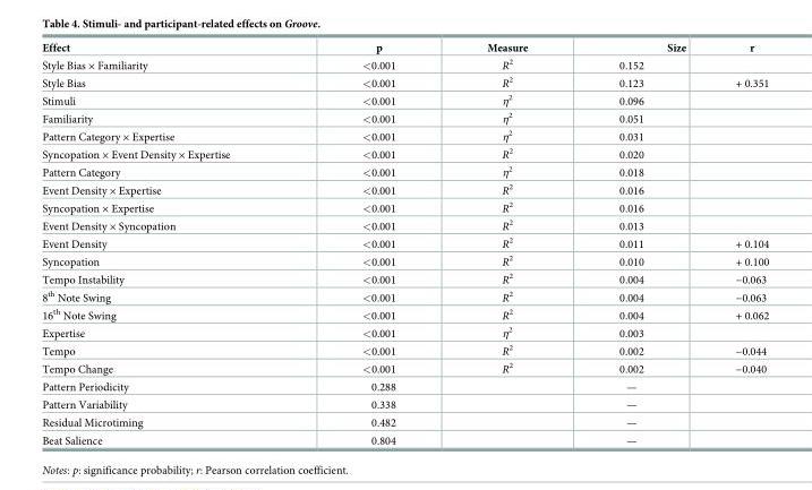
<table><thead><tr><td>Effect</td><td>p</td><td>Measure</td><td>Size</td><td>r</td></tr></thead><tbody><tr><td>Style Bias × Familiarity</td><td>&lt;0.001</td><td>R<sup>2</sup></td><td>0.152</td><td></td></tr><tr><td>Style Bias</td><td>&lt;0.001</td><td>R<sup>2</sup></td><td>0.123</td><td>+ 0.351</td></tr><tr><td>Stimuli</td><td>&lt;0.001</td><td>η<sup>2</sup></td><td>0.096</td><td></td></tr><tr><td>Familiarity</td><td>&lt;0.001</td><td>η<sup>2</sup></td><td>0.051</td><td></td></tr><tr><td>Pattern Category × Expertise</td><td>&lt;0.001</td><td>η<sup>2</sup></td><td>0.031</td><td></td></tr><tr><td>Syncopation × Event Density × Expertise</td><td>&lt;0.001</td><td>R<sup>2</sup></td><td>0.020</td><td></td></tr><tr><td>Pattern Category</td><td>&lt;0.001</td><td>η<sup>2</sup></td><td>0.018</td><td></td></tr><tr><td>Event Density × Expertise</td><td>&lt;0.001</td><td>R<sup>2</sup></td><td>0.016</td><td></td></tr><tr><td>Syncopation × Expertise</td><td>&lt;0.001</td><td>R<sup>2</sup></td><td>0.016</td><td></td></tr><tr><td>Event Density × Syncopation</td><td>&lt;0.001</td><td>R<sup>2</sup></td><td>0.013</td><td></td></tr><tr><td>Event Density</td><td>&lt;0.001</td><td>R<sup>2</sup></td><td>0.011</td><td>+ 0.104</td></tr><tr><td>Syncopation</td><td>&lt;0.001</td><td>R<sup>2</sup></td><td>0.010</td><td>+ 0.100</td></tr><tr><td>Tempo Instability</td><td>&lt;0.001</td><td>R<sup>2</sup></td><td>0.004</td><td>−0.063</td></tr><tr><td>8<sup>th</sup> Note Swing</td><td>&lt;0.001</td><td>R<sup>2</sup></td><td>0.004</td><td>−0.063</td></tr><tr><td>16<sup>th</sup> Note Swing</td><td>&lt;0.001</td><td>R<sup>2</sup></td><td>0.004</td><td>+ 0.062</td></tr><tr><td>Expertise</td><td>&lt;0.001</td><td>η<sup>2</sup></td><td>0.003</td><td></td></tr><tr><td>Tempo</td><td>&lt;0.001</td><td>R<sup>2</sup></td><td>0.002</td><td>−0.044</td></tr><tr><td>Tempo Change</td><td>&lt;0.001</td><td>R<sup>2</sup></td><td>0.002</td><td>−0.040</td></tr><tr><td>Pattern Periodicity</td><td>0.288</td><td></td><td>—</td><td></td></tr><tr><td>Pattern Variability</td><td>0.338</td><td></td><td>—</td><td></td></tr><tr><td>Residual Microtiming</td><td>0.482</td><td></td><td>—</td><td></td></tr><tr><td>Beat Salience</td><td>0.804</td><td></td><td>—</td><td></td></tr></tbody></table>